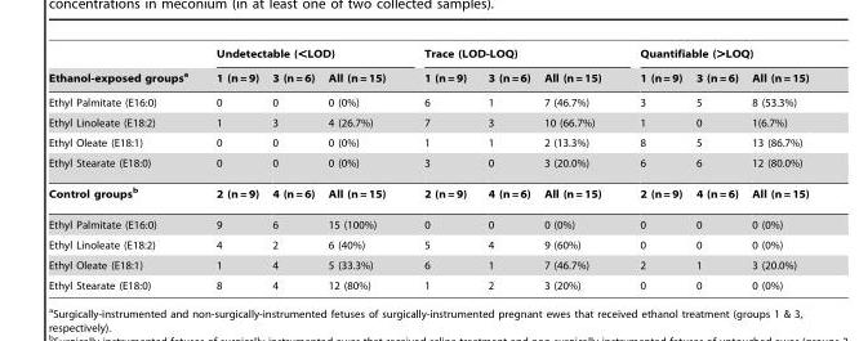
<table><thead><tr><td rowspan="2">Ethanol-exposed groups<sup>a</sup></td><td colspan="3">Undetectable (&lt;LOD)</td><td colspan="3">Trace (LOD-LOQ)</td><td colspan="3">Quantifiable (&gt;LOQ)</td></tr><tr><td>1 (n = 9)</td><td>3 (n = 6)</td><td>All (n = 15)</td><td>1 (n = 9)</td><td>3 (n = 6)</td><td>All (n = 15)</td><td>1 (n = 9)</td><td>3 (n = 6)</td><td>All (n = 15)</td></tr></thead><tbody><tr><td>Ethyl Palmitate (E16:0)</td><td>0</td><td>0</td><td>0 (0%)</td><td>6</td><td>1</td><td>7 (46.7%)</td><td>3</td><td>5</td><td>8 (53.3%)</td></tr><tr><td>Ethyl Linoleate (E18:2)</td><td>1</td><td>3</td><td>4 (26.7%)</td><td>7</td><td>3</td><td>10 (66.7%)</td><td>1</td><td>0</td><td>1(6.7%)</td></tr><tr><td>Ethyl Oleate (E18:1)</td><td>0</td><td>0</td><td>0 (0%)</td><td>1</td><td>1</td><td>2 (13.3%)</td><td>8</td><td>5</td><td>13 (86.7%)</td></tr><tr><td>Ethyl Stearate (E18:0)</td><td>0</td><td>0</td><td>0 (0%)</td><td>3</td><td>0</td><td>3 (20.0%)</td><td>6</td><td>6</td><td>12 (80.0%)</td></tr><tr><td>Control groupsb</td><td>2 (n = 9)</td><td>4 (n = 6)</td><td>All (n = 15)</td><td>2 (n = 9)</td><td>4 (n = 6)</td><td>All (n = 15)</td><td>2 (n = 9)</td><td>4 (n = 6)</td><td>All (n = 15)</td></tr><tr><td>Ethyl Palmitate (E16:0)</td><td>9</td><td>6</td><td>15 (100%)</td><td>0</td><td>0</td><td>0 (0%)</td><td>0</td><td>0</td><td>0 (0%)</td></tr><tr><td>Ethyl Linoleate (E18:2)</td><td>4</td><td>2</td><td>6 (40%)</td><td>5</td><td>4</td><td>9 (60%)</td><td>0</td><td>0</td><td>0 (0%)</td></tr><tr><td>Ethyl Oleate (E18:1)</td><td>1</td><td>4</td><td>5 (33.3%)</td><td>6</td><td>1</td><td>7 (46.7%)</td><td>2</td><td>1</td><td>3 (20.0%)</td></tr><tr><td>Ethyl Stearate (E18:0)</td><td>8</td><td>4</td><td>12 (80%)</td><td>1</td><td>2</td><td>3 (20%)</td><td>0</td><td>0</td><td>0 (0%)</td></tr></tbody></table>